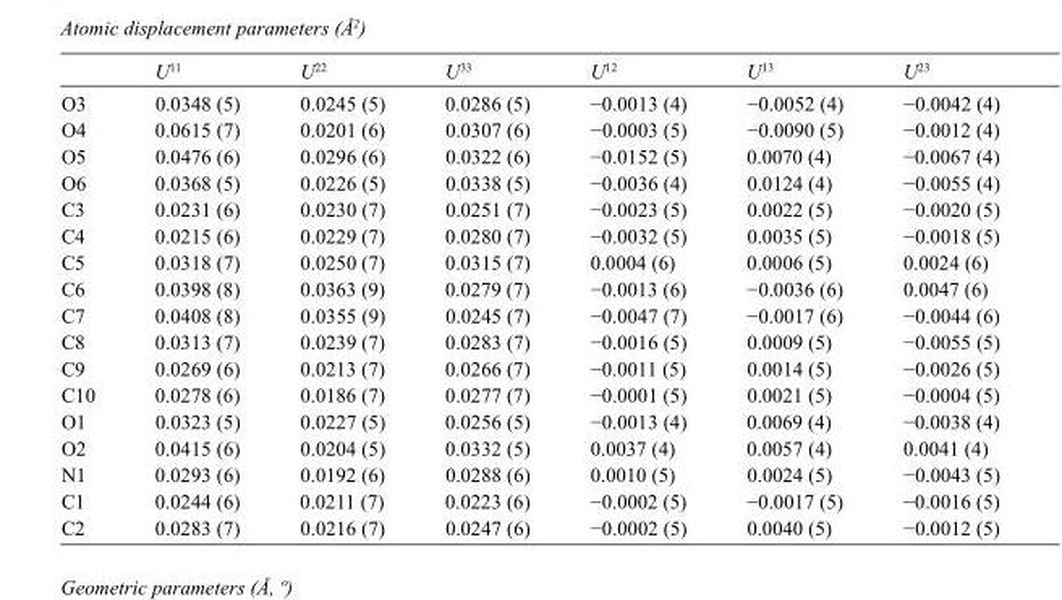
<table><thead><tr><td></td><td>U<sup>11</sup></td><td>U<sup>22</sup></td><td>U<sup>33</sup></td><td>U<sup>12</sup></td><td>U<sup>13</sup></td><td>U<sup>23</sup></td></tr></thead><tbody><tr><td>O3</td><td>0.0348 (5)</td><td>0.0245 (5)</td><td>0.0286 (5)</td><td>−0.0013 (4)</td><td>−0.0052 (4)</td><td>−0.0042 (4)</td></tr><tr><td>O4</td><td>0.0615 (7)</td><td>0.0201 (6)</td><td>0.0307 (6)</td><td>−0.0003 (5)</td><td>−0.0090 (5)</td><td>−0.0012 (4)</td></tr><tr><td>O5</td><td>0.0476 (6)</td><td>0.0296 (6)</td><td>0.0322 (6)</td><td>−0.0152 (5)</td><td>0.0070 (4)</td><td>−0.0067 (4)</td></tr><tr><td>O6</td><td>0.0368 (5)</td><td>0.0226 (5)</td><td>0.0338 (5)</td><td>−0.0036 (4)</td><td>0.0124 (4)</td><td>−0.0055 (4)</td></tr><tr><td>C3</td><td>0.0231 (6)</td><td>0.0230 (7)</td><td>0.0251 (7)</td><td>−0.0023 (5)</td><td>0.0022 (5)</td><td>−0.0020 (5)</td></tr><tr><td>C4</td><td>0.0215 (6)</td><td>0.0229 (7)</td><td>0.0280 (7)</td><td>−0.0032 (5)</td><td>0.0035 (5)</td><td>−0.0018 (5)</td></tr><tr><td>C5</td><td>0.0318 (7)</td><td>0.0250 (7)</td><td>0.0315 (7)</td><td>0.0004 (6)</td><td>0.0006 (5)</td><td>0.0024 (6)</td></tr><tr><td>C6</td><td>0.0398 (8)</td><td>0.0363 (9)</td><td>0.0279 (7)</td><td>−0.0013 (6)</td><td>−0.0036 (6)</td><td>0.0047 (6)</td></tr><tr><td>C7</td><td>0.0408 (8)</td><td>0.0355 (9)</td><td>0.0245 (7)</td><td>−0.0047 (7)</td><td>−0.0017 (6)</td><td>−0.0044 (6)</td></tr><tr><td>C8</td><td>0.0313 (7)</td><td>0.0239 (7)</td><td>0.0283 (7)</td><td>−0.0016 (5)</td><td>0.0009 (5)</td><td>−0.0055 (5)</td></tr><tr><td>C9</td><td>0.0269 (6)</td><td>0.0213 (7)</td><td>0.0266 (7)</td><td>−0.0011 (5)</td><td>0.0014 (5)</td><td>−0.0026 (5)</td></tr><tr><td>C10</td><td>0.0278 (6)</td><td>0.0186 (7)</td><td>0.0277 (7)</td><td>−0.0001 (5)</td><td>0.0021 (5)</td><td>−0.0004 (5)</td></tr><tr><td>O1</td><td>0.0323 (5)</td><td>0.0227 (5)</td><td>0.0256 (5)</td><td>−0.0013 (4)</td><td>0.0069 (4)</td><td>−0.0038 (4)</td></tr><tr><td>O2</td><td>0.0415 (6)</td><td>0.0204 (5)</td><td>0.0332 (5)</td><td>0.0037 (4)</td><td>0.0057 (4)</td><td>0.0041 (4)</td></tr><tr><td>N1</td><td>0.0293 (6)</td><td>0.0192 (6)</td><td>0.0288 (6)</td><td>0.0010 (5)</td><td>0.0024 (5)</td><td>−0.0043 (5)</td></tr><tr><td>C1</td><td>0.0244 (6)</td><td>0.0211 (7)</td><td>0.0223 (6)</td><td>−0.0002 (5)</td><td>−0.0017 (5)</td><td>−0.0016 (5)</td></tr><tr><td>C2</td><td>0.0283 (7)</td><td>0.0216 (7)</td><td>0.0247 (6)</td><td>−0.0002 (5)</td><td>0.0040 (5)</td><td>−0.0012 (5)</td></tr></tbody></table>